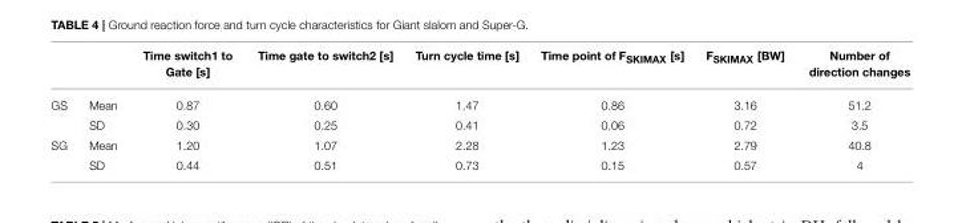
<table><thead><tr><td></td><td></td><td>Time switch1 to Gate [s]</td><td>Time gate to switch2 [s]</td><td>Turn cycle time [s]</td><td>Time point of F<sub>SKIMAX</sub> [s]</td><td>F<sub>SKIMAX</sub> [BW]</td><td>Number of direction changes</td></tr></thead><tbody><tr><td rowspan="2">GS</td><td>Mean</td><td>0.87</td><td>0.60</td><td>1.47</td><td>0.86</td><td>3.16</td><td>51.2</td></tr><tr><td>SD</td><td>0.30</td><td>0.25</td><td>0.41</td><td>0.06</td><td>0.72</td><td>3.5</td></tr><tr><td rowspan="2">SG</td><td>Mean</td><td>1.20</td><td>1.07</td><td>2.28</td><td>1.23</td><td>2.79</td><td>40.8</td></tr><tr><td>SD</td><td>0.44</td><td>0.51</td><td>0.73</td><td>0.15</td><td>0.57</td><td>4</td></tr></tbody></table>